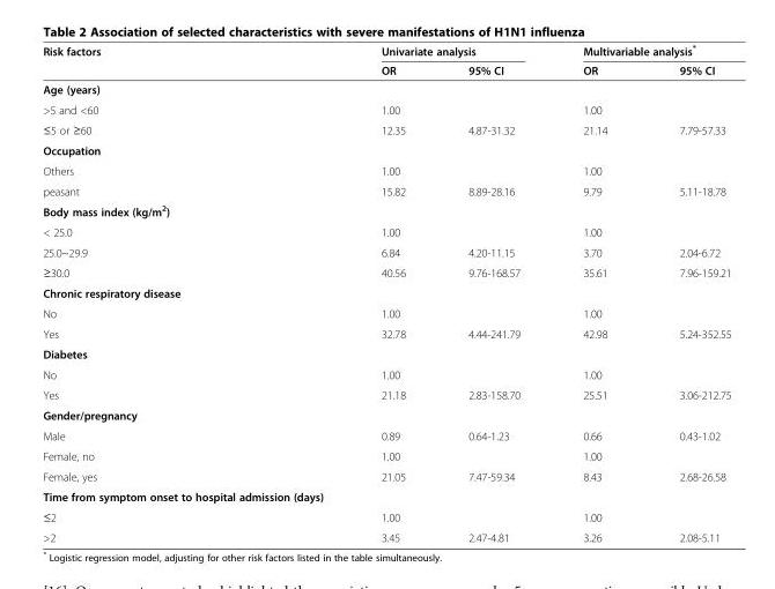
<table><thead><tr><td rowspan="2">Risk factors</td><td colspan="2">Univariate analysis</td><td colspan="2">Multivariable analysis*</td></tr><tr><td>OR</td><td>95% CI</td><td>OR</td><td>95% CI</td></tr></thead><tbody><tr><td colspan="5">Age (years)</td></tr><tr><td>&gt;5 and &lt;60</td><td>1.00</td><td></td><td>1.00</td><td></td></tr><tr><td>≤5 or ≥60</td><td>12.35</td><td>4.87-31.32</td><td>21.14</td><td>7.79-57.33</td></tr><tr><td colspan="5">Occupation</td></tr><tr><td>Others</td><td>1.00</td><td></td><td>1.00</td><td></td></tr><tr><td>peasant</td><td>15.82</td><td>8.89-28.16</td><td>9.79</td><td>5.11-18.78</td></tr><tr><td colspan="5">Body mass index (kg/m<sup>2</sup>)</td></tr><tr><td>&lt; 25.0</td><td>1.00</td><td></td><td>1.00</td><td></td></tr><tr><td>25.0~29.9</td><td>6.84</td><td>4.20-11.15</td><td>3.70</td><td>2.04-6.72</td></tr><tr><td>≥30.0</td><td>40.56</td><td>9.76-168.57</td><td>35.61</td><td>7.96-159.21</td></tr><tr><td colspan="5">Chronic respiratory disease</td></tr><tr><td>No</td><td>1.00</td><td></td><td>1.00</td><td></td></tr><tr><td>Yes</td><td>32.78</td><td>4.44-241.79</td><td>42.98</td><td>5.24-352.55</td></tr><tr><td colspan="5">Diabetes</td></tr><tr><td>No</td><td>1.00</td><td></td><td>1.00</td><td></td></tr><tr><td>Yes</td><td>21.18</td><td>2.83-158.70</td><td>25.51</td><td>3.06-212.75</td></tr><tr><td colspan="5">Gender/pregnancy</td></tr><tr><td>Male</td><td>0.89</td><td>0.64-1.23</td><td>0.66</td><td>0.43-1.02</td></tr><tr><td>Female, no</td><td>1.00</td><td></td><td>1.00</td><td></td></tr><tr><td>Female, yes</td><td>21.05</td><td>7.47-59.34</td><td>8.43</td><td>2.68-26.58</td></tr><tr><td colspan="5">Time from symptom onset to hospital admission (days)</td></tr><tr><td>≤2</td><td>1.00</td><td></td><td>1.00</td><td></td></tr><tr><td>&gt;2</td><td>3.45</td><td>2.47-4.81</td><td>3.26</td><td>2.08-5.11</td></tr></tbody></table>